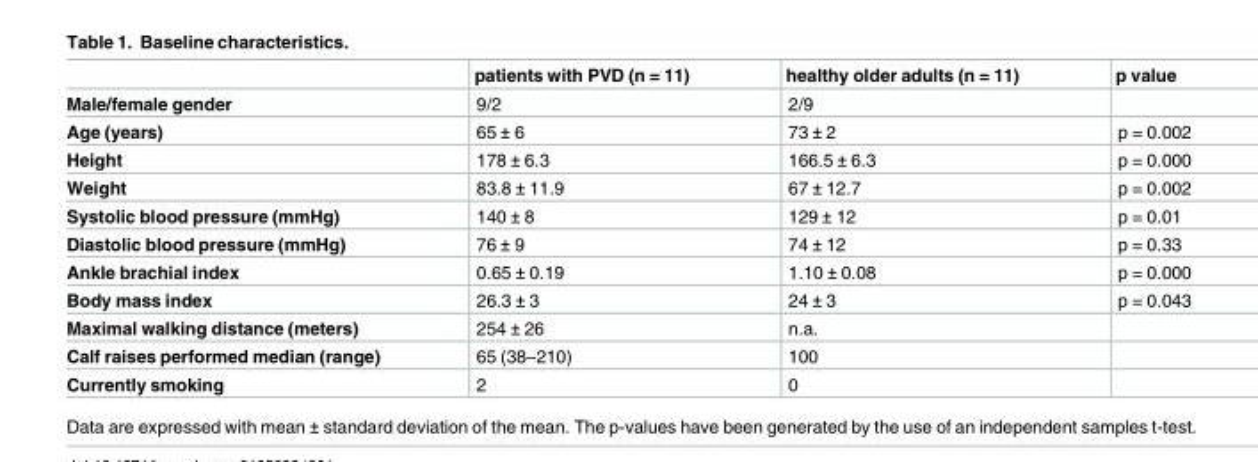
<table><thead><tr><td></td><td>patients with PVD (n = 11)</td><td>healthy older adults (n = 11)</td><td>p value</td></tr></thead><tbody><tr><td>Male/female gender</td><td>9/2</td><td>2/9</td><td></td></tr><tr><td>Age (years)</td><td>65 ± 6</td><td>73 ± 2</td><td>p = 0.002</td></tr><tr><td>Height</td><td>178 ± 6.3</td><td>166.5 ± 6.3</td><td>p = 0.000</td></tr><tr><td>Weight</td><td>83.8 ± 11.9</td><td>67 ± 12.7</td><td>p = 0.002</td></tr><tr><td>Systolic blood pressure (mmHg)</td><td>140 ± 8</td><td>129 ± 12</td><td>p = 0.01</td></tr><tr><td>Diastolic blood pressure (mmHg)</td><td>76 ± 9</td><td>74 ± 12</td><td>p = 0.33</td></tr><tr><td>Ankle brachial index</td><td>0.65 ± 0.19</td><td>1.10 ± 0.08</td><td>p = 0.000</td></tr><tr><td>Body mass index</td><td>26.3 ± 3</td><td>24 ± 3</td><td>p = 0.043</td></tr><tr><td>Maximal walking distance (meters)</td><td>254 ± 26</td><td>n.a.</td><td></td></tr><tr><td>Calf raises performed median (range)</td><td>65 (38–210)</td><td>100</td><td></td></tr><tr><td>Currently smoking</td><td>2</td><td>0</td><td></td></tr></tbody></table>